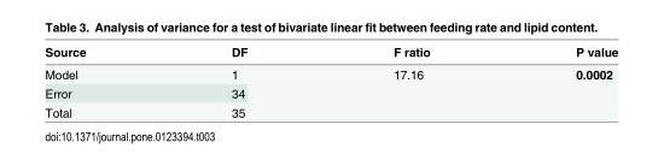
<table><thead><tr><td>Source</td><td>DF</td><td>F ratio</td><td>P value</td></tr></thead><tbody><tr><td>Model</td><td>1</td><td rowspan="3">17.16</td><td rowspan="3">0.0002</td></tr><tr><td>Error</td><td>34</td></tr><tr><td>Total</td><td>35</td></tr></tbody></table>